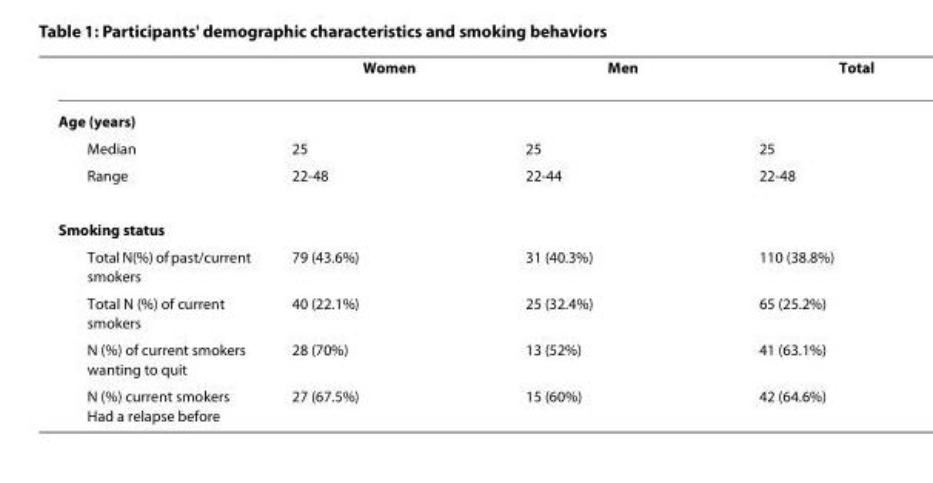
<table><thead><tr><td></td><td>Women</td><td>Men</td><td>Total</td></tr></thead><tbody><tr><td colspan="4">Age (years)</td></tr><tr><td>Median</td><td>25</td><td>25</td><td>25</td></tr><tr><td>Range</td><td>22-48</td><td>22-44</td><td>22-48</td></tr><tr><td colspan="4">Smoking status</td></tr><tr><td>Total N(%) of past/current smokers</td><td>79 (43.6%)</td><td>31 (40.3%)</td><td>110 (38.8%)</td></tr><tr><td>Total N (%) of current smokers</td><td>40 (22.1%)</td><td>25 (32.4%)</td><td>65 (25.2%)</td></tr><tr><td>N (%) of current smokers wanting to quit</td><td>28 (70%)</td><td>13 (52%)</td><td>41 (63.1%)</td></tr><tr><td>N (%) current smokers Had a relapse before</td><td>27 (67.5%)</td><td>15 (60%)</td><td>42 (64.6%)</td></tr></tbody></table>